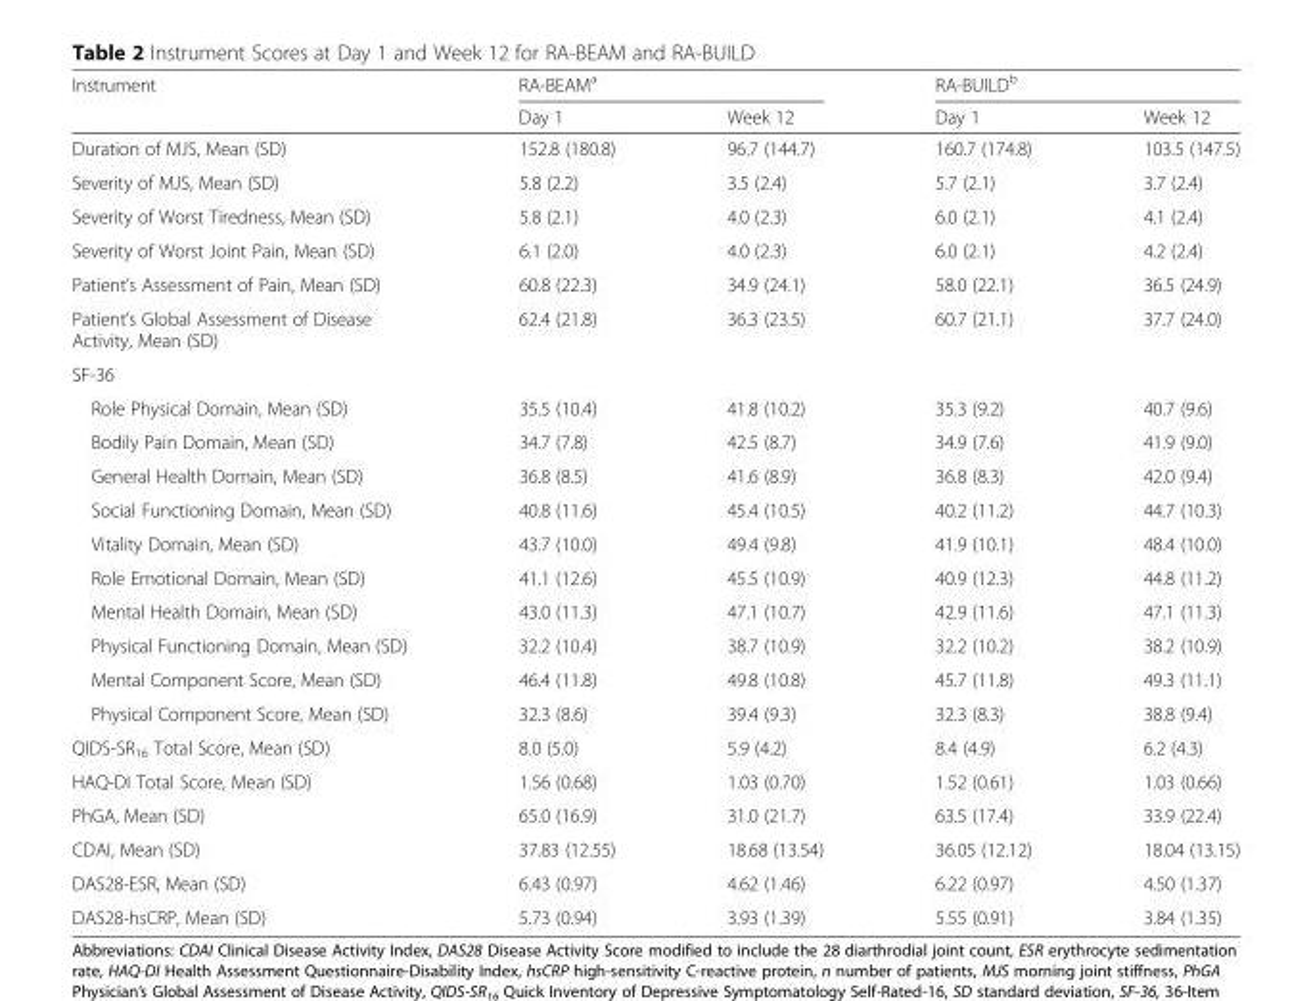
<table><thead><tr><td rowspan="2">Instrument</td><td colspan="2">RA-BEAM<sup>a</sup></td><td colspan="2">RA-BUILD<sup>b</sup></td></tr><tr><td>Day 1</td><td>Week 12</td><td>Day 1</td><td>Week 12</td></tr></thead><tbody><tr><td>Duration of MJS, Mean (SD)</td><td>152.8 (180.8)</td><td>96.7 (144.7)</td><td>160.7 (174.8)</td><td>103.5 (147.5)</td></tr><tr><td>Severity of MJS, Mean (SD)</td><td>5.8 (2.2)</td><td>3.5 (2.4)</td><td>5.7 (2.1)</td><td>3.7 (2.4)</td></tr><tr><td>Severity of Worst Tiredness, Mean (SD)</td><td>5.8 (2.1)</td><td>4.0 (2.3)</td><td>6.0 (2.1)</td><td>4.1 (2.4)</td></tr><tr><td>Severity of Worst Joint Pain, Mean (SD)</td><td>6.1 (2.0)</td><td>4.0 (2.3)</td><td>6.0 (2.1)</td><td>4.2 (2.4)</td></tr><tr><td>Patient’s Assessment of Pain, Mean (SD)</td><td>60.8 (22.3)</td><td>34.9 (24.1)</td><td>58.0 (22.1)</td><td>36.5 (24.9)</td></tr><tr><td>Patient’s Global Assessment of Disease Activity, Mean (SD)</td><td>62.4 (21.8)</td><td>36.3 (23.5)</td><td>60.7 (21.1)</td><td>37.7 (24.0)</td></tr><tr><td colspan="5">SF-36</td></tr><tr><td>Role Physical Domain, Mean (SD)</td><td>35.5 (10.4)</td><td>41.8 (10.2)</td><td>35.3 (9.2)</td><td>40.7 (9.6)</td></tr><tr><td>Bodily Pain Domain, Mean (SD)</td><td>34.7 (7.8)</td><td>42.5 (8.7)</td><td>34.9 (7.6)</td><td>41.9 (9.0)</td></tr><tr><td>General Health Domain, Mean (SD)</td><td>36.8 (8.5)</td><td>41.6 (8.9)</td><td>36.8 (8.3)</td><td>42.0 (9.4)</td></tr><tr><td>Social Functioning Domain, Mean (SD)</td><td>40.8 (11.6)</td><td>45.4 (10.5)</td><td>40.2 (11.2)</td><td>44.7 (10.3)</td></tr><tr><td>Vitality Domain, Mean (SD)</td><td>43.7 (10.0)</td><td>49.4 (9.8)</td><td>41.9 (10.1)</td><td>48.4 (10.0)</td></tr><tr><td>Role Emotional Domain, Mean (SD)</td><td>41.1 (12.6)</td><td>45.5 (10.9)</td><td>40.9 (12.3)</td><td>44.8 (11.2)</td></tr><tr><td>Mental Health Domain, Mean (SD)</td><td>43.0 (11.3)</td><td>47.1 (10.7)</td><td>42.9 (11.6)</td><td>47.1 (11.3)</td></tr><tr><td>Physical Functioning Domain, Mean (SD)</td><td>32.2 (10.4)</td><td>38.7 (10.9)</td><td>32.2 (10.2)</td><td>38.2 (10.9)</td></tr><tr><td>Mental Component Score, Mean (SD)</td><td>46.4 (11.8)</td><td>49.8 (10.8)</td><td>45.7 (11.8)</td><td>49.3 (11.1)</td></tr><tr><td>Physical Component Score, Mean (SD)</td><td>32.3 (8.6)</td><td>39.4 (9.3)</td><td>32.3 (8.3)</td><td>38.8 (9.4)</td></tr><tr><td>QIDS-SR<sub>16</sub> Total Score, Mean (SD)</td><td>8.0 (5.0)</td><td>5.9 (4.2)</td><td>8.4 (4.9)</td><td>6.2 (4.3)</td></tr><tr><td>HAQ-DI Total Score, Mean (SD)</td><td>1.56 (0.68)</td><td>1.03 (0.70)</td><td>1.52 (0.61)</td><td>1.03 (0.66)</td></tr><tr><td>PhGA, Mean (SD)</td><td>65.0 (16.9)</td><td>31.0 (21.7)</td><td>63.5 (17.4)</td><td>33.9 (22.4)</td></tr><tr><td>CDAI, Mean (SD)</td><td>37.83 (12.55)</td><td>18.68 (13.54)</td><td>36.05 (12.12)</td><td>18.04 (13.15)</td></tr><tr><td>DAS28-ESR, Mean (SD)</td><td>6.43 (0.97)</td><td>4.62 (1.46)</td><td>6.22 (0.97)</td><td>4.50 (1.37)</td></tr><tr><td>DAS28-hsCRP, Mean (SD)</td><td>5.73 (0.94)</td><td>3.93 (1.39)</td><td>5.55 (0.91)</td><td>3.84 (1.35)</td></tr></tbody></table>